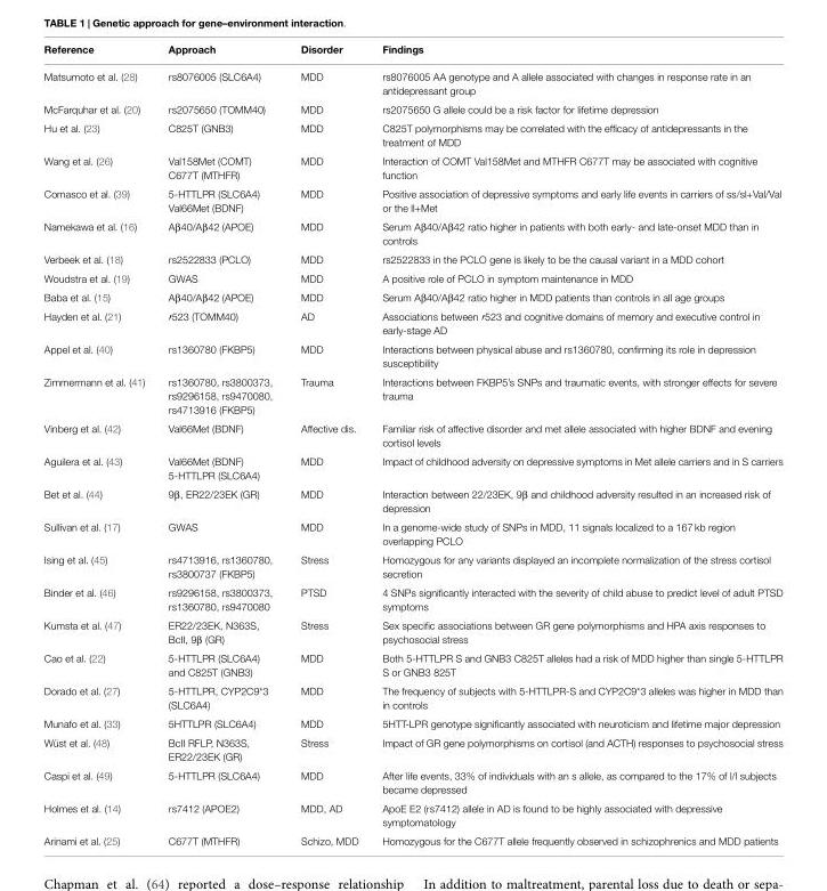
<table><thead><tr><td>Reference</td><td>Approach</td><td>Disorder</td><td>Findings</td></tr></thead><tbody><tr><td>Matsumoto et al. (28)</td><td>rs8076005 (SLC6A4)</td><td>MDD</td><td>rs8076005 AA genotype and A allele associated with changes in response rate in an antidepressant group</td></tr><tr><td>McFarquhar et al. (20)</td><td>rs2075650 (TOMM40)</td><td>MDD</td><td>rs2075650 G allele could be a risk factor for lifetime depression</td></tr><tr><td>Hu et al. (23)</td><td>C825T (GNB3)</td><td>MDD</td><td>C825T polymorphisms may be correlated with the efficacy of antidepressants in the treatment of MDD</td></tr><tr><td>Wang et al. (26)</td><td>Val158Met (COMT) C677T (MTHFR)</td><td>MDD</td><td>Interaction of COMT Val158Met and MTHFR C677T may be associated with cognitive function</td></tr><tr><td>Comasco et al. (39)</td><td>5-HTTLPR (SLC6A4) Val66Met (BDNF)</td><td>MDD</td><td>Positive association of depressive symptoms and early life events in carriers of ss/sl+Val/Val or the ll+Met</td></tr><tr><td>Namekawa et al. (16)</td><td>Aβ40/Aβ42 (APOE)</td><td>MDD</td><td>Serum Aβ40/Aβ42 ratio higher in patients with both early- and late-onset MDD than in controls</td></tr><tr><td>Verbeek et al. (18)</td><td>rs2522833 (PCLO)</td><td>MDD</td><td>rs2522833 in the PCLO gene is likely to be the causal variant in a MDD cohort</td></tr><tr><td>Woudstra et al. (19)</td><td>GWAS</td><td>MDD</td><td>A positive role of PCLO in symptom maintenance in MDD</td></tr><tr><td>Baba et al. (15)</td><td>Aβ40/Aβ42 (APOE)</td><td>MDD</td><td>Serum Aβ40/Aβ42 ratio higher in MDD patients than controls in all age groups</td></tr><tr><td>Hayden et al. (21)</td><td>′523 (TOMM40)</td><td>AD</td><td>Associations between ′523 and cognitive domains of memory and executive control in early-stage AD</td></tr><tr><td>Appel et al. (40)</td><td>rs1360780 (FKBP5)</td><td>MDD</td><td>Interactions between physical abuse and rs1360780, confirming its role in depression susceptibility</td></tr><tr><td>Zimmermann et al. (41)</td><td>rs1360780, rs3800373, rs9296158, rs9470080, rs4713916 (FKBP5)</td><td>Trauma</td><td>Interactions between FKBP5’s SNPs and traumatic events, with stronger effects for severe trauma</td></tr><tr><td>Vinberg et al. (42)</td><td>Val66Met (BDNF)</td><td>Affective dis.</td><td>Familiar risk of affective disorder and met allele associated with higher BDNF and evening cortisol levels</td></tr><tr><td>Aguilera et al. (43)</td><td>Val66Met (BDNF) 5-HTTLPR (SLC6A4)</td><td>MDD</td><td>Impact of childhood adversity on depressive symptoms in Met allele carriers and in S carriers</td></tr><tr><td>Bet et al. (44)</td><td>9β, ER22/23EK (GR)</td><td>MDD</td><td>Interaction between 22/23EK, 9β and childhood adversity resulted in an increased risk of depression</td></tr><tr><td>Sullivan et al. (17)</td><td>GWAS</td><td>MDD</td><td>In a genome-wide study of SNPs in MDD, 11 signals localized to a 167 kb region overlapping PCLO</td></tr><tr><td>Ising et al. (45)</td><td>rs4713916, rs1360780, rs3800737 (FKBP5)</td><td>Stress</td><td>Homozygous for any variants displayed an incomplete normalization of the stress cortisol secretion</td></tr><tr><td>Binder et al. (46)</td><td>rs9296158, rs3800373, rs1360780, rs9470080</td><td>PTSD</td><td>4 SNPs significantly interacted with the severity of child abuse to predict level of adult PTSD symptoms</td></tr><tr><td>Kumsta et al. (47)</td><td>ER22/23EK, N363S, BcII, 9β (GR)</td><td>Stress</td><td>Sex specific associations between GR gene polymorphisms and HPA axis responses to psychosocial stress</td></tr><tr><td>Cao et al. (22)</td><td>5-HTTLPR (SLC6A4) and C825T (GNB3)</td><td>MDD</td><td>Both 5-HTTLPR S and GNB3 C825T alleles had a risk of MDD higher than single 5-HTTLPR S or GNB3 825T</td></tr><tr><td>Dorado et al. (27)</td><td>5-HTTLPR, CYP2C9*3 (SLC6A4)</td><td>MDD</td><td>The frequency of subjects with 5-HTTLPR-S and CYP2C9*3 alleles was higher in MDD than in controls</td></tr><tr><td>Munafo et al. (33)</td><td>5HTTLPR (SLC6A4)</td><td>MDD</td><td>5HTT-LPR genotype significantly associated with neuroticism and lifetime major depression</td></tr><tr><td>Wüst et al. (48)</td><td>BcII RFLP, N363S, ER22/23EK (GR)</td><td>Stress</td><td>Impact of GR gene polymorphisms on cortisol (and ACTH) responses to psychosocial stress</td></tr><tr><td>Caspi et al. (49)</td><td>5-HTTLPR (SLC6A4)</td><td>MDD</td><td>After life events, 33% of individuals with an s allele, as compared to the 17% of l/l subjects became depressed</td></tr><tr><td>Holmes et al. (14)</td><td>rs7412 (APOE2)</td><td>MDD, AD</td><td>ApoE E2 (rs7412) allele in AD is found to be highly associated with depressive symptomatology</td></tr><tr><td>Arinami et al. (25)</td><td>C677T (MTHFR)</td><td>Schizo, MDD</td><td>Homozygous for the C677T allele frequently observed in schizophrenics and MDD patients</td></tr></tbody></table>